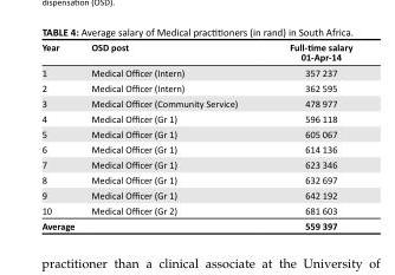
<table><thead><tr><td>Year</td><td>OSD post</td><td>Full-time salary 01-Apr-14</td></tr></thead><tbody><tr><td>1</td><td>Medical Officer (Intern)</td><td>357 237</td></tr><tr><td>2</td><td>Medical Officer (Intern)</td><td>362 595</td></tr><tr><td>3</td><td>Medical Officer (Community Service)</td><td>478 977</td></tr><tr><td>4</td><td>Medical Officer (Gr 1)</td><td>596 118</td></tr><tr><td>5</td><td>Medical Officer (Gr 1)</td><td>605 067</td></tr><tr><td>6</td><td>Medical Officer (Gr 1)</td><td>614 136</td></tr><tr><td>7</td><td>Medical Officer (Gr 1)</td><td>623 346</td></tr><tr><td>8</td><td>Medical Officer (Gr 1)</td><td>632 697</td></tr><tr><td>9</td><td>Medical Officer (Gr 1)</td><td>642 192</td></tr><tr><td>10</td><td>Medical Officer (Gr 2)</td><td>681 603</td></tr><tr><td>Average</td><td></td><td>559 397</td></tr></tbody></table>